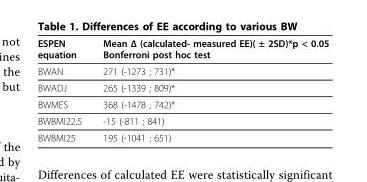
<table><thead><tr><td>ESPEN equation</td><td>Mean Δ (calculated- measured EE)( ± 2SD)*p &lt; 0.05 Bonferroni post hoc test</td></tr></thead><tbody><tr><td>BWAN</td><td>271 (-1273 ; 731)*</td></tr><tr><td>BWADJ</td><td>265 (-1339 ; 809)*</td></tr><tr><td>BWMES</td><td>368 (-1478 ; 742)*</td></tr><tr><td>BWBMI22.5</td><td>-15 (-811 ; 841)</td></tr><tr><td>BWBMI25</td><td>195 (-1041 ; 651)</td></tr></tbody></table>